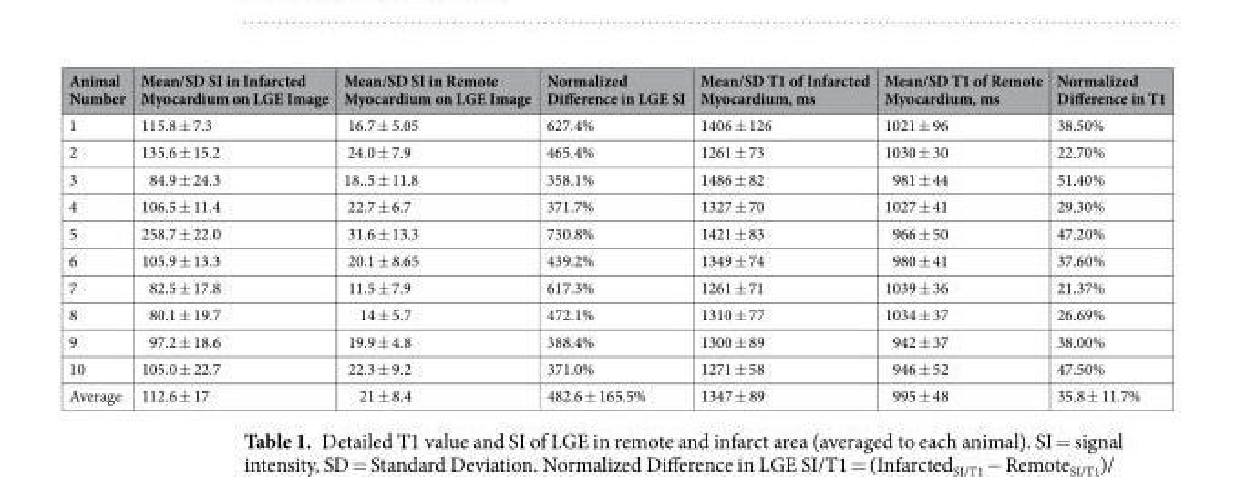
<table><thead><tr><td>Animal Number</td><td>Mean/SD SI in Infarcted Myocardium on LGE Image</td><td>Mean/SD SI in Remote Myocardium on LGE Image</td><td>Normalized Difference in LGE SI</td><td>Mean/SD T1 of Infarcted Myocardium, ms</td><td>Mean/SD T1 of Remote Myocardium, ms</td><td>Normalized Difference in T1</td></tr></thead><tbody><tr><td>1</td><td>115.8 ± 7.3</td><td>16.7 ± 5.05</td><td>627.4%</td><td>1406 ± 126</td><td>1021 ± 96</td><td>38.50%</td></tr><tr><td>2</td><td>135.6 ± 15.2</td><td>24.0 ± 7.9</td><td>465.4%</td><td>1261 ± 73</td><td>1030 ± 30</td><td>22.70%</td></tr><tr><td>3</td><td>84.9 ± 24.3</td><td>18..5 ± 11.8</td><td>358.1%</td><td>1486 ± 82</td><td>981 ± 44</td><td>51.40%</td></tr><tr><td>4</td><td>106.5 ± 11.4</td><td>22.7 ± 6.7</td><td>371.7%</td><td>1327 ± 70</td><td>1027 ± 41</td><td>29.30%</td></tr><tr><td>5</td><td>258.7 ± 22.0</td><td>31.6 ± 13.3</td><td>730.8%</td><td>1421 ± 83</td><td>966 ± 50</td><td>47.20%</td></tr><tr><td>6</td><td>105.9 ± 13.3</td><td>20.1 ± 8.65</td><td>439.2%</td><td>1349 ± 74</td><td>980 ± 41</td><td>37.60%</td></tr><tr><td>7</td><td>82.5 ± 17.8</td><td>11.5 ± 7.9</td><td>617.3%</td><td>1261 ± 71</td><td>1039 ± 36</td><td>21.37%</td></tr><tr><td>8</td><td>80.1 ± 19.7</td><td>14 ± 5.7</td><td>472.1%</td><td>1310 ± 77</td><td>1034 ± 37</td><td>26.69%</td></tr><tr><td>9</td><td>97.2 ± 18.6</td><td>19.9 ± 4.8</td><td>388.4%</td><td>1300 ± 89</td><td>942 ± 37</td><td>38.00%</td></tr><tr><td>10</td><td>105.0 ± 22.7</td><td>22.3 ± 9.2</td><td>371.0%</td><td>1271 ± 58</td><td>946 ± 52</td><td>47.50%</td></tr><tr><td>Average</td><td>112.6 ± 17</td><td>21 ± 8.4</td><td>482.6 ± 165.5%</td><td>1347 ± 89</td><td>995 ± 48</td><td>35.8 ± 11.7%</td></tr></tbody></table>